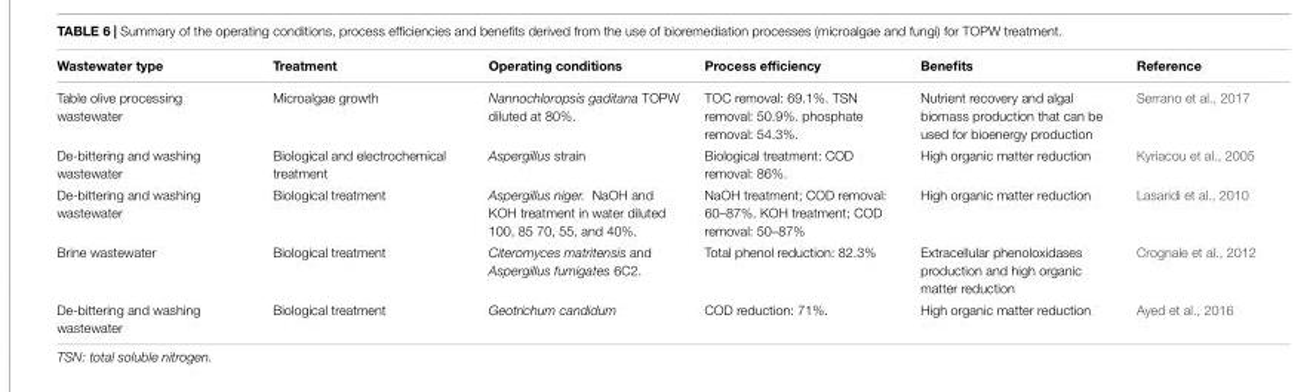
<table><thead><tr><td>Wastewater type</td><td>Treatment</td><td>Operating conditions</td><td>Process efficiency</td><td>Benefits</td><td>Reference</td></tr></thead><tbody><tr><td>Table olive processing wastewater</td><td>Microalgae growth</td><td>Nannochloropsis gaditana TOPW diluted at 80%.</td><td>TOC removal: 69.1%. TSN removal: 50.9%. phosphate removal: 54.3%.</td><td>Nutrient recovery and algal biomass production that can be used for bioenergy production</td><td>Serrano et al., 2017</td></tr><tr><td>De-bittering and washing wastewater</td><td>Biological and electrochemical treatment</td><td>Aspergillus strain</td><td>Biological treatment: COD removal: 86%.</td><td>High organic matter reduction</td><td>Kyriacou et al., 2005</td></tr><tr><td>De-bittering and washing wastewater</td><td>Biological treatment</td><td>Aspergillus niger. NaOH and KOH treatment in water diluted 100, 85 70, 55, and 40%.</td><td>NaOH treatment; COD removal: 60–87%. KOH treatment; COD removal: 50–87%</td><td>High organic matter reduction</td><td>Lasaridi et al., 2010</td></tr><tr><td>Brine wastewater</td><td>Biological treatment</td><td>Citeromyces matritensis and Aspergillus fumigates 6C2.</td><td>Total phenol reduction: 82.3%</td><td>Extracellular phenoloxidases production and high organic matter reduction</td><td>Crognale et al., 2012</td></tr><tr><td>De-bittering and washing wastewater</td><td>Biological treatment</td><td>Geotrichum candidum</td><td>COD reduction: 71%.</td><td>High organic matter reduction</td><td>Ayed et al., 2016</td></tr></tbody></table>